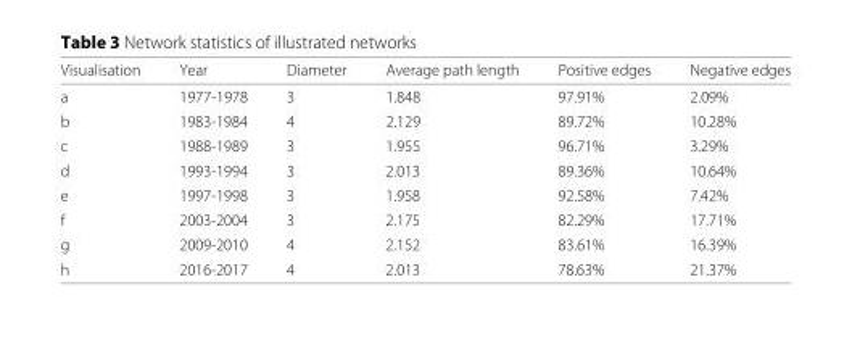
<table><thead><tr><td>Visualisation</td><td>Year</td><td>Diameter</td><td>Average path length</td><td>Positive edges</td><td>Negative edges</td></tr></thead><tbody><tr><td>a</td><td>1977-1978</td><td>3</td><td>1.848</td><td>97.91%</td><td>2.09%</td></tr><tr><td>b</td><td>1983-1984</td><td>4</td><td>2.129</td><td>89.72%</td><td>10.28%</td></tr><tr><td>c</td><td>1988-1989</td><td>3</td><td>1.955</td><td>96.71%</td><td>3.29%</td></tr><tr><td>d</td><td>1993-1994</td><td>3</td><td>2.013</td><td>89.36%</td><td>10.64%</td></tr><tr><td>e</td><td>1997-1998</td><td>3</td><td>1.958</td><td>92.58%</td><td>7.42%</td></tr><tr><td>f</td><td>2003-2004</td><td>3</td><td>2.175</td><td>82.29%</td><td>17.71%</td></tr><tr><td>g</td><td>2009-2010</td><td>4</td><td>2.152</td><td>83.61%</td><td>16.39%</td></tr><tr><td>h</td><td>2016-2017</td><td>4</td><td>2.013</td><td>78.63%</td><td>21.37%</td></tr></tbody></table>